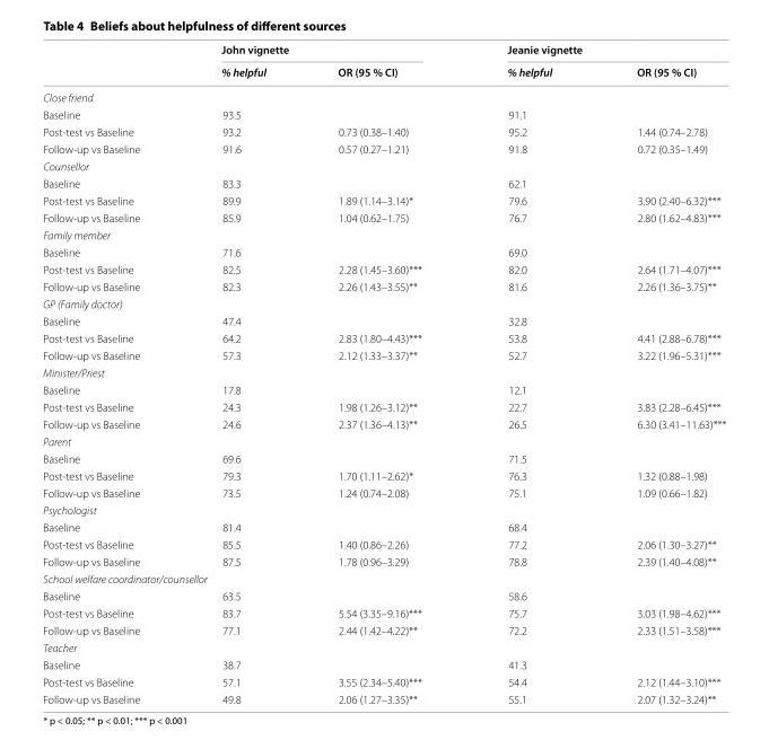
<table><thead><tr><td rowspan="2"></td><td colspan="2">John vignette</td><td colspan="2">Jeanie vignette</td></tr><tr><td>% helpful</td><td>OR (95 % CI)</td><td>% helpful</td><td>OR (95 % CI)</td></tr></thead><tbody><tr><td colspan="5">Close friend</td></tr><tr><td>Baseline</td><td>93.5</td><td></td><td>91.1</td><td></td></tr><tr><td>Post-test vs Baseline</td><td>93.2</td><td>0.73 (0.38–1.40)</td><td>95.2</td><td>1.44 (0.74–2.78)</td></tr><tr><td>Follow-up vs Baseline</td><td>91.6</td><td>0.57 (0.27–1.21)</td><td>91.8</td><td>0.72 (0.35–1.49)</td></tr><tr><td colspan="5">Counsellor</td></tr><tr><td>Baseline</td><td>83.3</td><td></td><td>62.1</td><td></td></tr><tr><td>Post-test vs Baseline</td><td>89.9</td><td>1.89 (1.14–3.14)*</td><td>79.6</td><td>3.90 (2.40–6.32)***</td></tr><tr><td>Follow-up vs Baseline</td><td>85.9</td><td>1.04 (0.62–1.75)</td><td>76.7</td><td>2.80 (1.62–4.83)***</td></tr><tr><td colspan="5">Family member</td></tr><tr><td>Baseline</td><td>71.6</td><td></td><td>69.0</td><td></td></tr><tr><td>Post-test vs Baseline</td><td>82.5</td><td>2.28 (1.45–3.60)***</td><td>82.0</td><td>2.64 (1.71–4.07)***</td></tr><tr><td>Follow-up vs Baseline</td><td>82.3</td><td>2.26 (1.43–3.55)**</td><td>81.6</td><td>2.26 (1.36–3.75)**</td></tr><tr><td colspan="5">GP (Family doctor)</td></tr><tr><td>Baseline</td><td>47.4</td><td></td><td>32.8</td><td></td></tr><tr><td>Post-test vs Baseline</td><td>64.2</td><td>2.83 (1.80–4.43)***</td><td>53.8</td><td>4.41 (2.88–6.78)***</td></tr><tr><td>Follow-up vs Baseline</td><td>57.3</td><td>2.12 (1.33–3.37)**</td><td>52.7</td><td>3.22 (1.96–5.31)***</td></tr><tr><td colspan="5">Minister/Priest</td></tr><tr><td>Baseline</td><td>17.8</td><td></td><td>12.1</td><td></td></tr><tr><td>Post-test vs Baseline</td><td>24.3</td><td>1.98 (1.26–3.12)**</td><td>22.7</td><td>3.83 (2.28–6.45)***</td></tr><tr><td>Follow-up vs Baseline</td><td>24.6</td><td>2.37 (1.36–4.13)**</td><td>26.5</td><td>6.30 (3.41–11.63)***</td></tr><tr><td colspan="5">Parent</td></tr><tr><td>Baseline</td><td>69.6</td><td></td><td>71.5</td><td></td></tr><tr><td>Post-test vs Baseline</td><td>79.3</td><td>1.70 (1.11–2.62)*</td><td>76.3</td><td>1.32 (0.88–1.98)</td></tr><tr><td>Follow-up vs Baseline</td><td>73.5</td><td>1.24 (0.74–2.08)</td><td>75.1</td><td>1.09 (0.66–1.82)</td></tr><tr><td colspan="5">Psychologist</td></tr><tr><td>Baseline</td><td>81.4</td><td></td><td>68.4</td><td></td></tr><tr><td>Post-test vs Baseline</td><td>85.5</td><td>1.40 (0.86–2.26)</td><td>77.2</td><td>2.06 (1.30–3.27)**</td></tr><tr><td>Follow-up vs Baseline</td><td>87.5</td><td>1.78 (0.96–3.29)</td><td>78.8</td><td>2.39 (1.40–4.08)**</td></tr><tr><td colspan="5">School welfare coordinator/counsellor</td></tr><tr><td>Baseline</td><td>63.5</td><td></td><td>58.6</td><td></td></tr><tr><td>Post-test vs Baseline</td><td>83.7</td><td>5.54 (3.35–9.16)***</td><td>75.7</td><td>3.03 (1.98–4.62)***</td></tr><tr><td>Follow-up vs Baseline</td><td>77.1</td><td>2.44 (1.42–4.22)**</td><td>72.2</td><td>2.33 (1.51–3.58)***</td></tr><tr><td colspan="5">Teacher</td></tr><tr><td>Baseline</td><td>38.7</td><td></td><td>41.3</td><td></td></tr><tr><td>Post-test vs Baseline</td><td>57.1</td><td>3.55 (2.34–5.40)***</td><td>54.4</td><td>2.12 (1.44–3.10)***</td></tr><tr><td>Follow-up vs Baseline</td><td>49.8</td><td>2.06 (1.27–3.35)**</td><td>55.1</td><td>2.07 (1.32–3.24)**</td></tr></tbody></table>